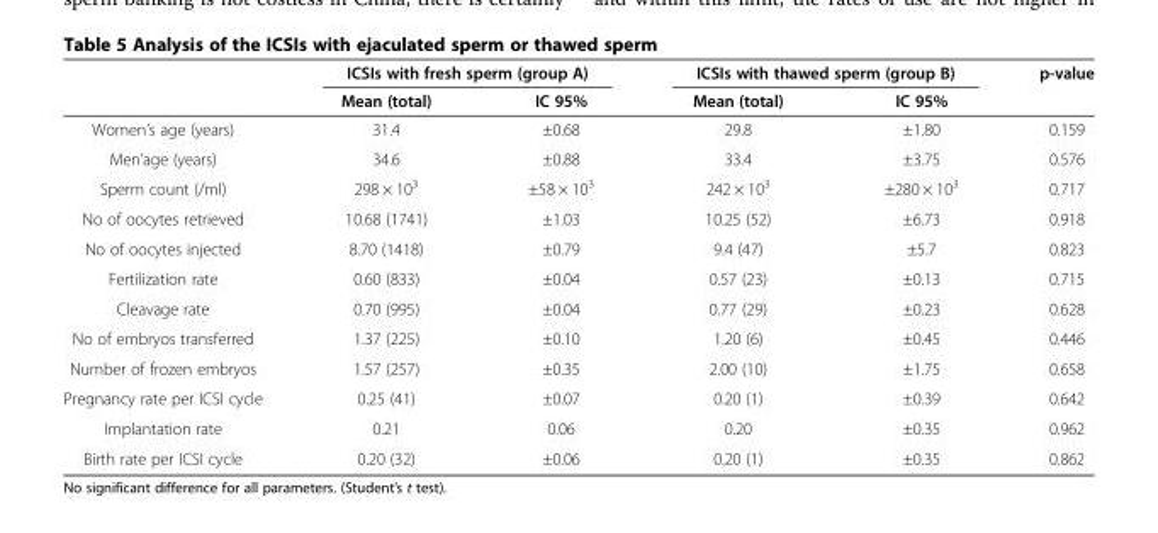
<table><thead><tr><td rowspan="2"></td><td colspan="2">ICSIs with fresh sperm (group A)</td><td colspan="2">ICSIs with thawed sperm (group B)</td><td rowspan="2">p-value</td></tr><tr><td>Mean (total)</td><td>IC 95%</td><td>Mean (total)</td><td>IC 95%</td></tr></thead><tbody><tr><td>Women’s age (years)</td><td>31.4</td><td>±0.68</td><td>29.8</td><td>±1.80</td><td>0.159</td></tr><tr><td>Men’age (years)</td><td>34.6</td><td>±0.88</td><td>33.4</td><td>±3.75</td><td>0.576</td></tr><tr><td>Sperm count (/ml)</td><td>298 × 10<sup>3</sup></td><td>±58 × 10<sup>3</sup></td><td>242 × 10<sup>3</sup></td><td>±280 × 10<sup>3</sup></td><td>0.717</td></tr><tr><td>No of oocytes retrieved</td><td>10.68 (1741)</td><td>±1.03</td><td>10.25 (52)</td><td>±6.73</td><td>0.918</td></tr><tr><td>No of oocytes injected</td><td>8.70 (1418)</td><td>±0.79</td><td>9.4 (47)</td><td>±5.7</td><td>0.823</td></tr><tr><td>Fertilization rate</td><td>0.60 (833)</td><td>±0.04</td><td>0.57 (23)</td><td>±0.13</td><td>0.715</td></tr><tr><td>Cleavage rate</td><td>0.70 (995)</td><td>±0.04</td><td>0.77 (29)</td><td>±0.23</td><td>0.628</td></tr><tr><td>No of embryos transferred</td><td>1.37 (225)</td><td>±0.10</td><td>1.20 (6)</td><td>±0.45</td><td>0.446</td></tr><tr><td>Number of frozen embryos</td><td>1.57 (257)</td><td>±0.35</td><td>2.00 (10)</td><td>±1.75</td><td>0.658</td></tr><tr><td>Pregnancy rate per ICSI cycle</td><td>0.25 (41)</td><td>±0.07</td><td>0.20 (1)</td><td>±0.39</td><td>0.642</td></tr><tr><td>Implantation rate</td><td>0.21</td><td>0.06</td><td>0.20</td><td>±0.35</td><td>0.962</td></tr><tr><td>Birth rate per ICSI cycle</td><td>0.20 (32)</td><td>±0.06</td><td>0.20 (1)</td><td>±0.35</td><td>0.862</td></tr></tbody></table>